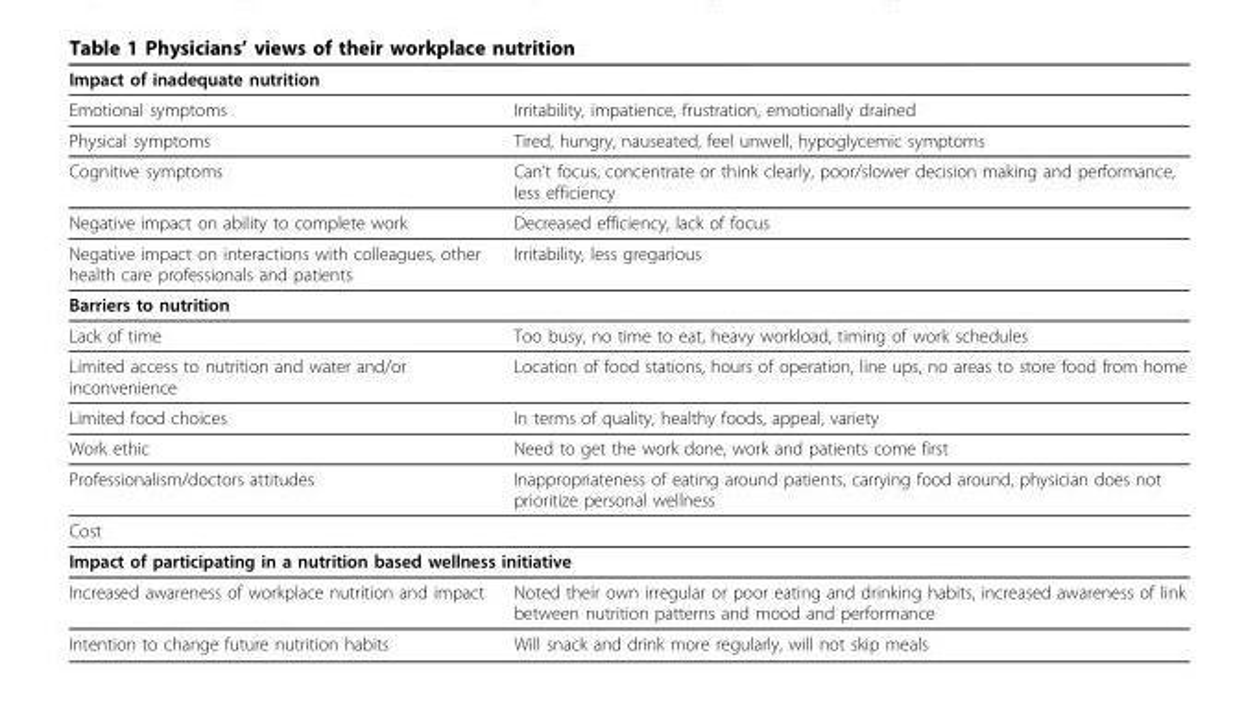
<table><thead><tr><td colspan="2">Impact of inadequate nutrition</td></tr><tr><td>Emotional symptoms</td><td>Irritability, impatience, frustration, emotionally drained</td></tr></thead><tbody><tr><td>Physical symptoms</td><td>Tired, hungry, nauseated, feel unwell, hypoglycemic symptoms</td></tr><tr><td>Cognitive symptoms</td><td>Can’t focus, concentrate or think clearly, poor/slower decision making and performance, less efficiency</td></tr><tr><td>Negative impact on ability to complete work</td><td>Decreased efficiency, lack of focus</td></tr><tr><td>Negative impact on interactions with colleagues, other health care professionals and patients</td><td>Irritability, less gregarious</td></tr><tr><td colspan="2">Barriers to nutrition</td></tr><tr><td>Lack of time</td><td>Too busy, no time to eat, heavy workload, timing of work schedules</td></tr><tr><td>Limited access to nutrition and water and/or inconvenience</td><td>Location of food stations, hours of operation, line ups, no areas to store food from home</td></tr><tr><td>Limited food choices</td><td>In terms of quality, healthy foods, appeal, variety</td></tr><tr><td>Work ethic</td><td>Need to get the work done, work and patients come first</td></tr><tr><td>Professionalism/doctors attitudes</td><td>Inappropriateness of eating around patients, carrying food around, physician does not prioritize personal wellness</td></tr><tr><td colspan="2">Cost</td></tr><tr><td colspan="2">Impact of participating in a nutrition based wellness initiative</td></tr><tr><td>Increased awareness of workplace nutrition and impact</td><td>Noted their own irregular or poor eating and drinking habits, increased awareness of link between nutrition patterns and mood and performance</td></tr><tr><td>Intention to change future nutrition habits</td><td>Will snack and drink more regularly, will not skip meals</td></tr></tbody></table>